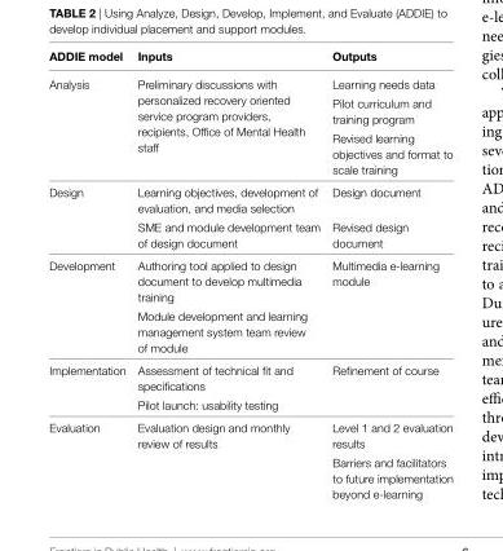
<table><thead><tr><td>addie model</td><td>inputs</td><td>outputs</td></tr></thead><tbody><tr><td rowspan="3">Analysis</td><td rowspan="3">Preliminary discussions with personalized recovery oriented service program providers, recipients, Office of Mental Health staff</td><td>Learning needs data</td></tr><tr><td>Pilot curriculum and training program</td></tr><tr><td>Revised learning objectives and format to scale training</td></tr><tr><td rowspan="2">Design</td><td>Learning objectives, development of evaluation, and media selection</td><td>Design document</td></tr><tr><td>SME and module development team of design document</td><td>Revised design document</td></tr><tr><td rowspan="2">Development</td><td>Authoring tool applied to design document to develop multimedia training</td><td rowspan="2">Multimedia e-learning module</td></tr><tr><td>Module development and learning management system team review of module</td></tr><tr><td rowspan="2">Implementation</td><td>Assessment of technical fit and specifications</td><td rowspan="2">Refinement of course</td></tr><tr><td>Pilot launch: usability testing</td></tr><tr><td rowspan="2">Evaluation</td><td rowspan="2">Evaluation design and monthly review of results</td><td>Level 1 and 2 evaluation results</td></tr><tr><td>Barriers and facilitators to future implementation beyond e-learning</td></tr></tbody></table>